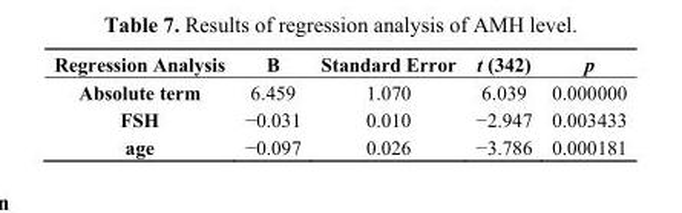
<table><thead><tr><td>Regression Analysis</td><td>B</td><td>Standard Error</td><td>t (342)</td><td>p</td></tr></thead><tbody><tr><td>Absolute term</td><td>6.459</td><td>1.070</td><td>6.039</td><td>0.000000</td></tr><tr><td>FSH</td><td>−0.031</td><td>0.010</td><td>−2.947</td><td>0.003433</td></tr><tr><td>age</td><td>−0.097</td><td>0.026</td><td>−3.786</td><td>0.000181</td></tr></tbody></table>